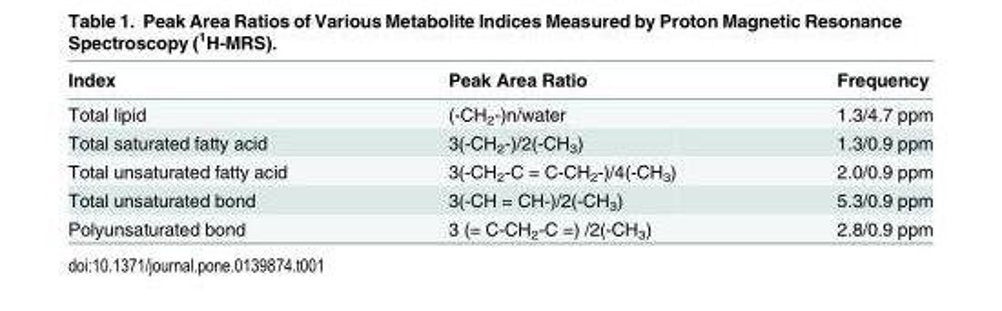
<table><thead><tr><td>Index</td><td>Peak Area Ratio</td><td>Frequency</td></tr></thead><tbody><tr><td>Total lipid</td><td>(-CH<sub>2</sub>-)n/water</td><td>1.3/4.7 ppm</td></tr><tr><td>Total saturated fatty acid</td><td>3(-CH<sub>2</sub>-)/2(-CH<sub>3</sub>)</td><td>1.3/0.9 ppm</td></tr><tr><td>Total unsaturated fatty acid</td><td>3(-CH<sub>2</sub>-C = C-CH<sub>2</sub>-)/4(-CH<sub>3</sub>)</td><td>2.0/0.9 ppm</td></tr><tr><td>Total unsaturated bond</td><td>3(-CH = CH-)/2(-CH<sub>3</sub>)</td><td>5.3/0.9 ppm</td></tr><tr><td>Polyunsaturated bond</td><td>3 (= C-CH<sub>2</sub>-C =) /2(-CH<sub>3</sub>)</td><td>2.8/0.9 ppm</td></tr></tbody></table>